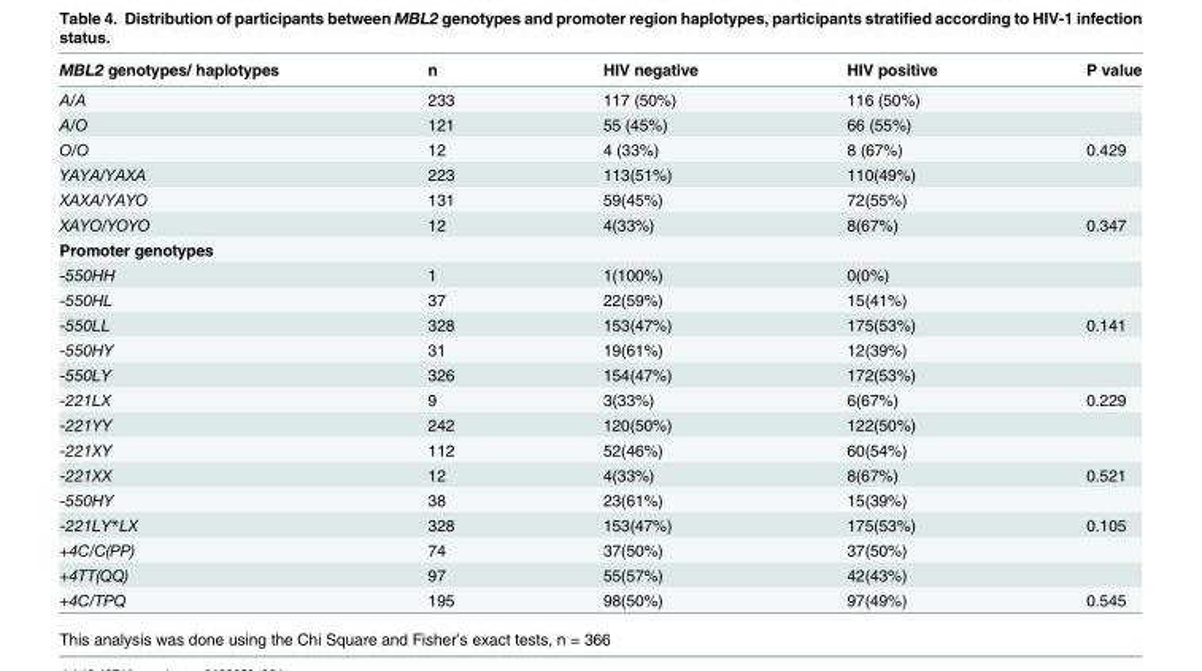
<table><thead><tr><td>MBL2 genotypes/ haplotypes</td><td>n</td><td>HIV negative</td><td>HIV positive</td><td>P value</td></tr></thead><tbody><tr><td>A/A</td><td>233</td><td>117 (50%)</td><td>116 (50%)</td><td></td></tr><tr><td>A/O</td><td>121</td><td>55 (45%)</td><td>66 (55%)</td><td></td></tr><tr><td>O/O</td><td>12</td><td>4 (33%)</td><td>8 (67%)</td><td>0.429</td></tr><tr><td>YAYA/YAXA</td><td>223</td><td>113(51%)</td><td>110(49%)</td><td></td></tr><tr><td>XAXA/YAYO</td><td>131</td><td>59(45%)</td><td>72(55%)</td><td></td></tr><tr><td>XAYO/YOYO</td><td>12</td><td>4(33%)</td><td>8(67%)</td><td>0.347</td></tr><tr><td colspan="5">Promoter genotypes</td></tr><tr><td>-550HH</td><td>1</td><td>1(100%)</td><td>0(0%)</td><td></td></tr><tr><td>-550HL</td><td>37</td><td>22(59%)</td><td>15(41%)</td><td></td></tr><tr><td>-550LL</td><td>328</td><td>153(47%)</td><td>175(53%)</td><td>0.141</td></tr><tr><td>-550HY</td><td>31</td><td>19(61%)</td><td>12(39%)</td><td></td></tr><tr><td>-550LY</td><td>326</td><td>154(47%)</td><td>172(53%)</td><td></td></tr><tr><td>-221LX</td><td>9</td><td>3(33%)</td><td>6(67%)</td><td>0.229</td></tr><tr><td>-221YY</td><td>242</td><td>120(50%)</td><td>122(50%)</td><td></td></tr><tr><td>-221XY</td><td>112</td><td>52(46%)</td><td>60(54%)</td><td></td></tr><tr><td>-221XX</td><td>12</td><td>4(33%)</td><td>8(67%)</td><td>0.521</td></tr><tr><td>-550HY</td><td>38</td><td>23(61%)</td><td>15(39%)</td><td></td></tr><tr><td>-221LY*LX</td><td>328</td><td>153(47%)</td><td>175(53%)</td><td>0.105</td></tr><tr><td>+4C/C(PP)</td><td>74</td><td>37(50%)</td><td>37(50%)</td><td></td></tr><tr><td>+4TT(QQ)</td><td>97</td><td>55(57%)</td><td>42(43%)</td><td></td></tr><tr><td>+4C/TPQ</td><td>195</td><td>98(50%)</td><td>97(49%)</td><td>0.545</td></tr></tbody></table>